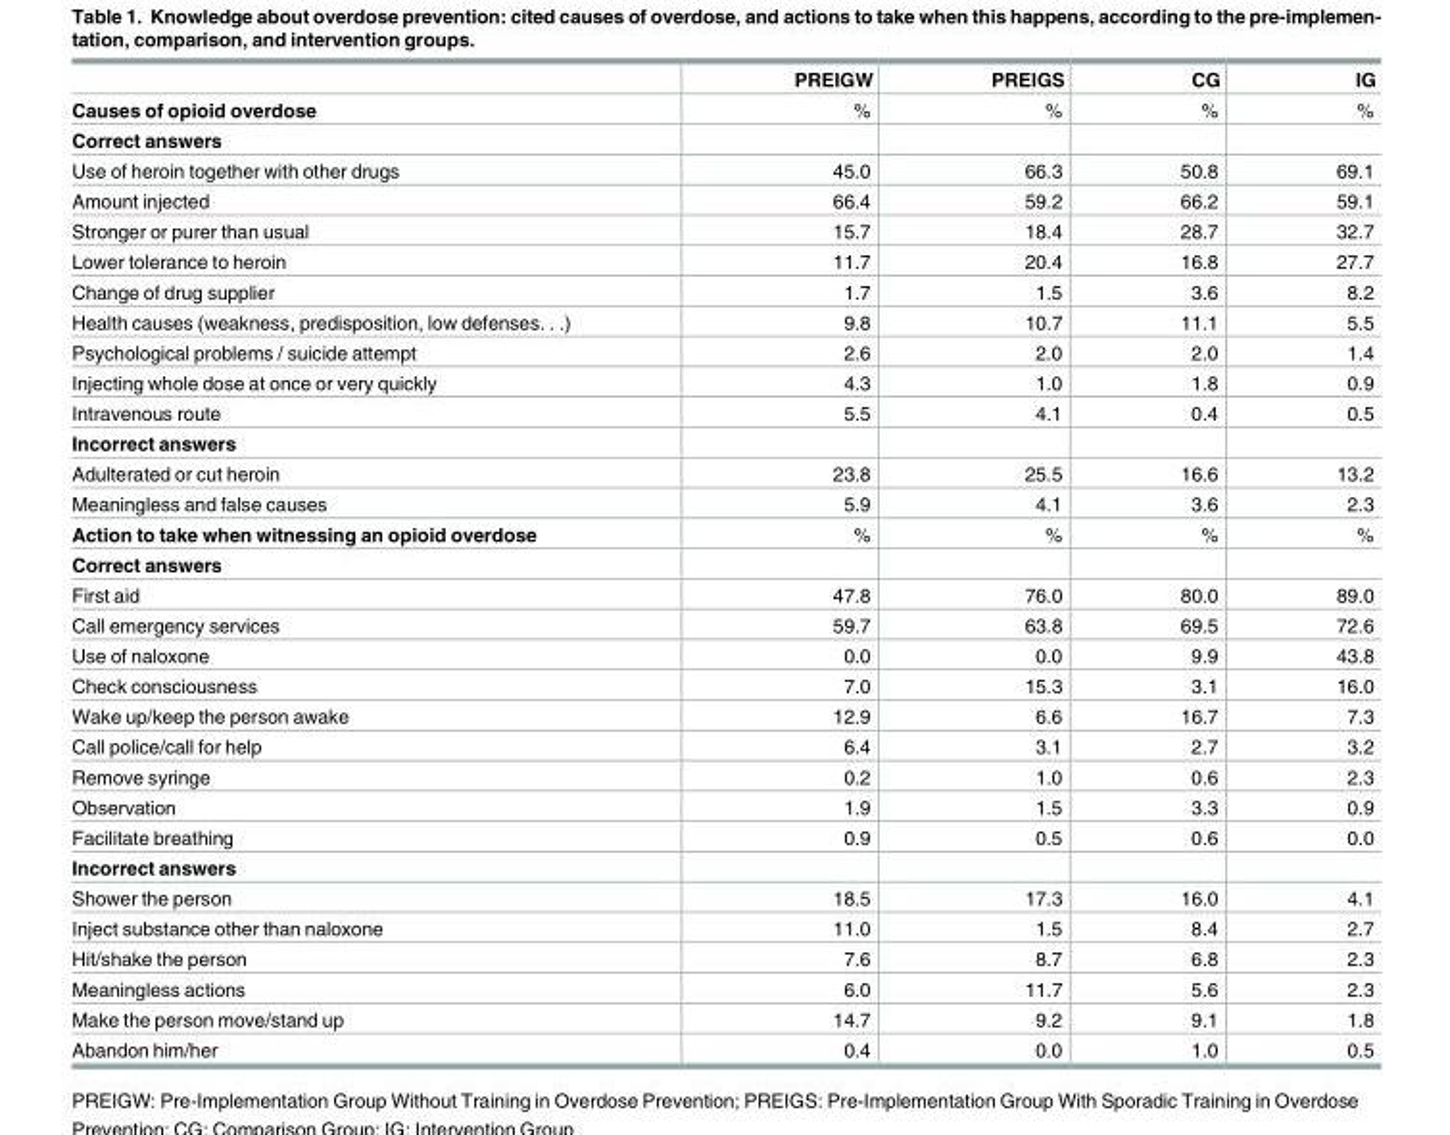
<table><thead><tr><td></td><td>PREIGW</td><td>PREIGS</td><td>CG</td><td>IG</td></tr></thead><tbody><tr><td>Causes of opioid overdose</td><td>%</td><td>%</td><td>%</td><td>%</td></tr><tr><td colspan="5">Correct answers</td></tr><tr><td>Use of heroin together with other drugs</td><td>45.0</td><td>66.3</td><td>50.8</td><td>69.1</td></tr><tr><td>Amount injected</td><td>66.4</td><td>59.2</td><td>66.2</td><td>59.1</td></tr><tr><td>Stronger or purer than usual</td><td>15.7</td><td>18.4</td><td>28.7</td><td>32.7</td></tr><tr><td>Lower tolerance to heroin</td><td>11.7</td><td>20.4</td><td>16.8</td><td>27.7</td></tr><tr><td>Change of drug supplier</td><td>1.7</td><td>1.5</td><td>3.6</td><td>8.2</td></tr><tr><td>Health causes (weakness, predisposition, low defenses. . .)</td><td>9.8</td><td>10.7</td><td>11.1</td><td>5.5</td></tr><tr><td>Psychological problems / suicide attempt</td><td>2.6</td><td>2.0</td><td>2.0</td><td>1.4</td></tr><tr><td>Injecting whole dose at once or very quickly</td><td>4.3</td><td>1.0</td><td>1.8</td><td>0.9</td></tr><tr><td>Intravenous route</td><td>5.5</td><td>4.1</td><td>0.4</td><td>0.5</td></tr><tr><td colspan="5">Incorrect answers</td></tr><tr><td>Adulterated or cut heroin</td><td>23.8</td><td>25.5</td><td>16.6</td><td>13.2</td></tr><tr><td>Meaningless and false causes</td><td>5.9</td><td>4.1</td><td>3.6</td><td>2.3</td></tr><tr><td>Action to take when witnessing an opioid overdose</td><td>%</td><td>%</td><td>%</td><td>%</td></tr><tr><td colspan="5">Correct answers</td></tr><tr><td>First aid</td><td>47.8</td><td>76.0</td><td>80.0</td><td>89.0</td></tr><tr><td>Call emergency services</td><td>59.7</td><td>63.8</td><td>69.5</td><td>72.6</td></tr><tr><td>Use of naloxone</td><td>0.0</td><td>0.0</td><td>9.9</td><td>43.8</td></tr><tr><td>Check consciousness</td><td>7.0</td><td>15.3</td><td>3.1</td><td>16.0</td></tr><tr><td>Wake up/keep the person awake</td><td>12.9</td><td>6.6</td><td>16.7</td><td>7.3</td></tr><tr><td>Call police/call for help</td><td>6.4</td><td>3.1</td><td>2.7</td><td>3.2</td></tr><tr><td>Remove syringe</td><td>0.2</td><td>1.0</td><td>0.6</td><td>2.3</td></tr><tr><td>Observation</td><td>1.9</td><td>1.5</td><td>3.3</td><td>0.9</td></tr><tr><td>Facilitate breathing</td><td>0.9</td><td>0.5</td><td>0.6</td><td>0.0</td></tr><tr><td colspan="5">Incorrect answers</td></tr><tr><td>Shower the person</td><td>18.5</td><td>17.3</td><td>16.0</td><td>4.1</td></tr><tr><td>Inject substance other than naloxone</td><td>11.0</td><td>1.5</td><td>8.4</td><td>2.7</td></tr><tr><td>Hit/shake the person</td><td>7.6</td><td>8.7</td><td>6.8</td><td>2.3</td></tr><tr><td>Meaningless actions</td><td>6.0</td><td>11.7</td><td>5.6</td><td>2.3</td></tr><tr><td>Make the person move/stand up</td><td>14.7</td><td>9.2</td><td>9.1</td><td>1.8</td></tr><tr><td>Abandon him/her</td><td>0.4</td><td>0.0</td><td>1.0</td><td>0.5</td></tr></tbody></table>